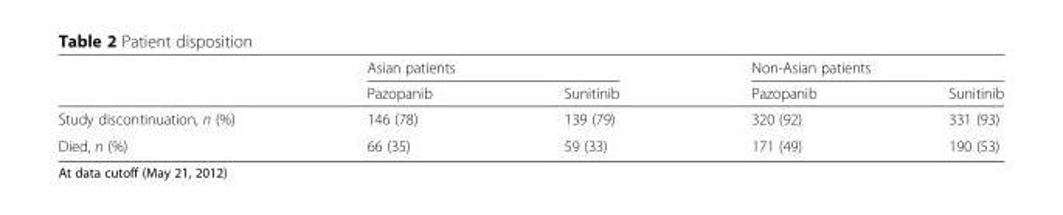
<table><thead><tr><td rowspan="2"></td><td colspan="2">Asian patients</td><td colspan="2">Non-Asian patients</td></tr><tr><td>Pazopanib</td><td>Sunitinib</td><td>Pazopanib</td><td>Sunitinib</td></tr></thead><tbody><tr><td>Study discontinuation, n (%)</td><td>146 (78)</td><td>139 (79)</td><td>320 (92)</td><td>331 (93)</td></tr><tr><td>Died, n (%)</td><td>66 (35)</td><td>59 (33)</td><td>171 (49)</td><td>190 (53)</td></tr></tbody></table>